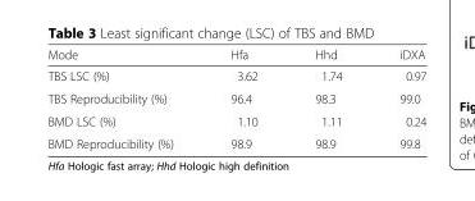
<table><thead><tr><td>Mode</td><td>Hfa</td><td>Hhd</td><td>iDXA</td></tr></thead><tbody><tr><td>TBS LSC (%)</td><td>3.62</td><td>1.74</td><td>0.97</td></tr><tr><td>TBS Reproducibility (%)</td><td>96.4</td><td>98.3</td><td>99.0</td></tr><tr><td>BMD LSC (%)</td><td>1.10</td><td>1.11</td><td>0.24</td></tr><tr><td>BMD Reproducibility (%)</td><td>98.9</td><td>98.9</td><td>99.8</td></tr></tbody></table>